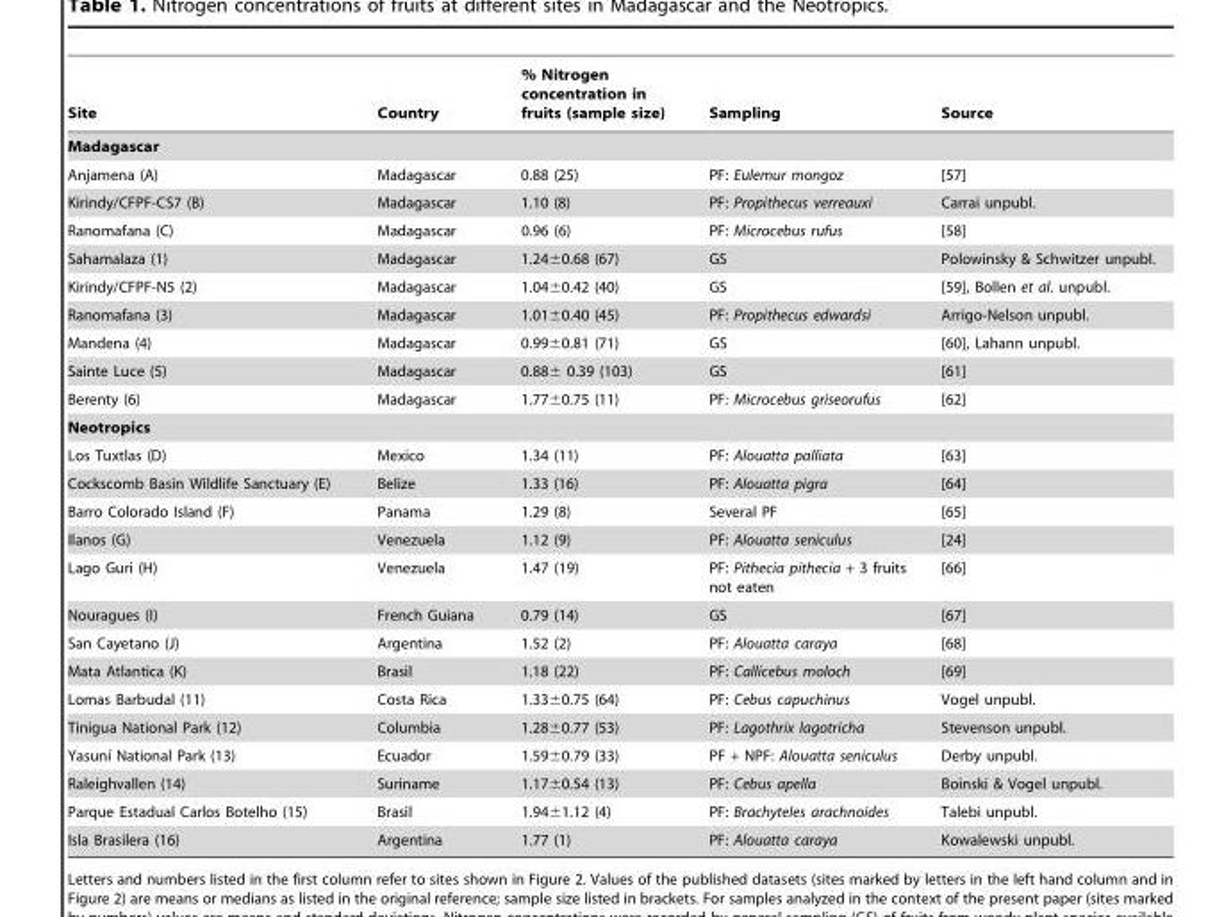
<table><thead><tr><td>Site</td><td>Country</td><td>% Nitrogen concentration in fruits (sample size)</td><td>Sampling</td><td>Source</td></tr></thead><tbody><tr><td colspan="5">Madagascar</td></tr><tr><td>Anjamena (A)</td><td>Madagascar</td><td>0.88 (25)</td><td>PF: Eulemur mongoz</td><td>[57]</td></tr><tr><td>Kirindy/CFPF-CS7 (B)</td><td>Madagascar</td><td>1.10 (8)</td><td>PF: Propithecus verreauxi</td><td>Carrai unpubl.</td></tr><tr><td>Ranomafana (C)</td><td>Madagascar</td><td>0.96 (6)</td><td>PF: Microcebus rufus</td><td>[58]</td></tr><tr><td>Sahamalaza (1)</td><td>Madagascar</td><td>1.24±0.68 (67)</td><td>GS</td><td>Polowinsky &amp; Schwitzer unpubl.</td></tr><tr><td>Kirindy/CFPF-N5 (2)</td><td>Madagascar</td><td>1.04±0.42 (40)</td><td>GS</td><td>[59], Bollen et al. unpubl.</td></tr><tr><td>Ranomafana (3)</td><td>Madagascar</td><td>1.01±0.40 (45)</td><td>PF: Propithecus edwardsi</td><td>Arrigo-Nelson unpubl.</td></tr><tr><td>Mandena (4)</td><td>Madagascar</td><td>0.99±0.81 (71)</td><td>GS</td><td>[60], Lahann unpubl.</td></tr><tr><td>Sainte Luce (5)</td><td>Madagascar</td><td>0.88± 0.39 (103)</td><td>GS</td><td>[61]</td></tr><tr><td>Berenty (6)</td><td>Madagascar</td><td>1.77±0.75 (11)</td><td>PF: Microcebus griseorufus</td><td>[62]</td></tr><tr><td colspan="5">Neotropics</td></tr><tr><td>Los Tuxtlas (D)</td><td>Mexico</td><td>1.34 (11)</td><td>PF: Alouatta palliata</td><td>[63]</td></tr><tr><td>Cockscomb Basin Wildlife Sanctuary (E)</td><td>Belize</td><td>1.33 (16)</td><td>PF: Alouatta pigra</td><td>[64]</td></tr><tr><td>Barro Colorado Island (F)</td><td>Panama</td><td>1.29 (8)</td><td>Several PF</td><td>[65]</td></tr><tr><td>Ilanos (G)</td><td>Venezuela</td><td>1.12 (9)</td><td>PF: Alouatta seniculus</td><td>[24]</td></tr><tr><td>Lago Guri (H)</td><td>Venezuela</td><td>1.47 (19)</td><td>PF: Pithecia pithecia + 3 fruits not eaten</td><td>[66]</td></tr><tr><td>Nouragues (I)</td><td>French Guiana</td><td>0.79 (14)</td><td>GS</td><td>[67]</td></tr><tr><td>San Cayetano (J)</td><td>Argentina</td><td>1.52 (2)</td><td>PF: Alouatta caraya</td><td>[68]</td></tr><tr><td>Mata Atlantica (K)</td><td>Brasil</td><td>1.18 (22)</td><td>PF: Callicebus moloch</td><td>[69]</td></tr><tr><td>Lomas Barbudal (11)</td><td>Costa Rica</td><td>1.33±0.75 (64)</td><td>PF: Cebus capuchinus</td><td>Vogel unpubl.</td></tr><tr><td>Tinigua National Park (12)</td><td>Columbia</td><td>1.28±0.77 (53)</td><td>PF: Lagothrix lagotricha</td><td>Stevenson unpubl.</td></tr><tr><td>Yasunı´ National Park (13)</td><td>Ecuador</td><td>1.59±0.79 (33)</td><td>PF + NPF: Alouatta seniculus</td><td>Derby unpubl.</td></tr><tr><td>Raleighvallen (14)</td><td>Suriname</td><td>1.17±0.54 (13)</td><td>PF: Cebus apella</td><td>Boinski &amp; Vogel unpubl.</td></tr><tr><td>Parque Estadual Carlos Botelho (15)</td><td>Brasil</td><td>1.94±1.12 (4)</td><td>PF: Brachyteles arachnoides</td><td>Talebi unpubl.</td></tr><tr><td>Isla Brasilera (16)</td><td>Argentina</td><td>1.77 (1)</td><td>PF: Alouatta caraya</td><td>Kowalewski unpubl.</td></tr></tbody></table>